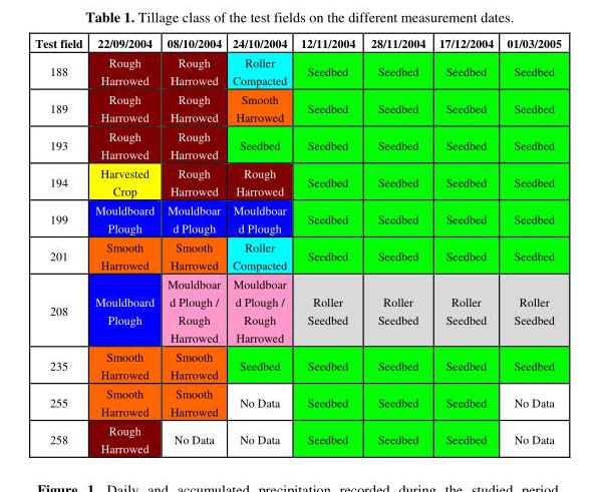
<table><tbody><tr><td>Test field</td><td>22/09/2004</td><td>08/10/2004</td><td>24/10/2004</td><td>12/11/2004</td><td>28/11/2004</td><td>17/12/2004</td><td>01/03/2005</td></tr><tr><td>188</td><td>Rough Harrowed</td><td>Rough Harrowed</td><td>Roller Compacted</td><td>Seedbed</td><td>Seedbed</td><td>Seedbed</td><td>Seedbed</td></tr><tr><td>189</td><td>Rough Harrowed</td><td>Rough Harrowed</td><td>Smooth Harrowed</td><td>Seedbed</td><td>Seedbed</td><td>Seedbed</td><td>Seedbed</td></tr><tr><td>193</td><td>Rough Harrowed</td><td>Rough Harrowed</td><td>Seedbed</td><td>Seedbed</td><td>Seedbed</td><td>Seedbed</td><td>Seedbed</td></tr><tr><td>194</td><td>Harvested Crop</td><td>Rough Harrowed</td><td>Rough Harrowed</td><td>Seedbed</td><td>Seedbed</td><td>Seedbed</td><td>Seedbed</td></tr><tr><td>199</td><td>Mouldboard Plough</td><td>Mouldboar d Plough</td><td>Mouldboar d Plough</td><td>Seedbed</td><td>Seedbed</td><td>Seedbed</td><td>Seedbed</td></tr><tr><td>201</td><td>Smooth Harrowed</td><td>Smooth Harrowed</td><td>Roller Compacted</td><td>Seedbed</td><td>Seedbed</td><td>Seedbed</td><td>Seedbed</td></tr><tr><td>208</td><td>Mouldboard Plough</td><td>Mouldboar d Plough / Rough Harrowed</td><td>Mouldboar d Plough / Rough Harrowed</td><td>Roller Seedbed</td><td>Roller Seedbed</td><td>Roller Seedbed</td><td>Roller Seedbed</td></tr><tr><td>235</td><td>Smooth Harrowed</td><td>Smooth Harrowed</td><td>Seedbed</td><td>Seedbed</td><td>Seedbed</td><td>Seedbed</td><td>Seedbed</td></tr><tr><td>255</td><td>Smooth Harrowed</td><td>Smooth Harrowed</td><td>No Data</td><td>Seedbed</td><td>Seedbed</td><td>Seedbed</td><td>No Data</td></tr><tr><td>258</td><td>Rough Harrowed</td><td>No Data</td><td>No Data</td><td>Seedbed</td><td>Seedbed</td><td>Seedbed</td><td>No Data</td></tr></tbody></table>